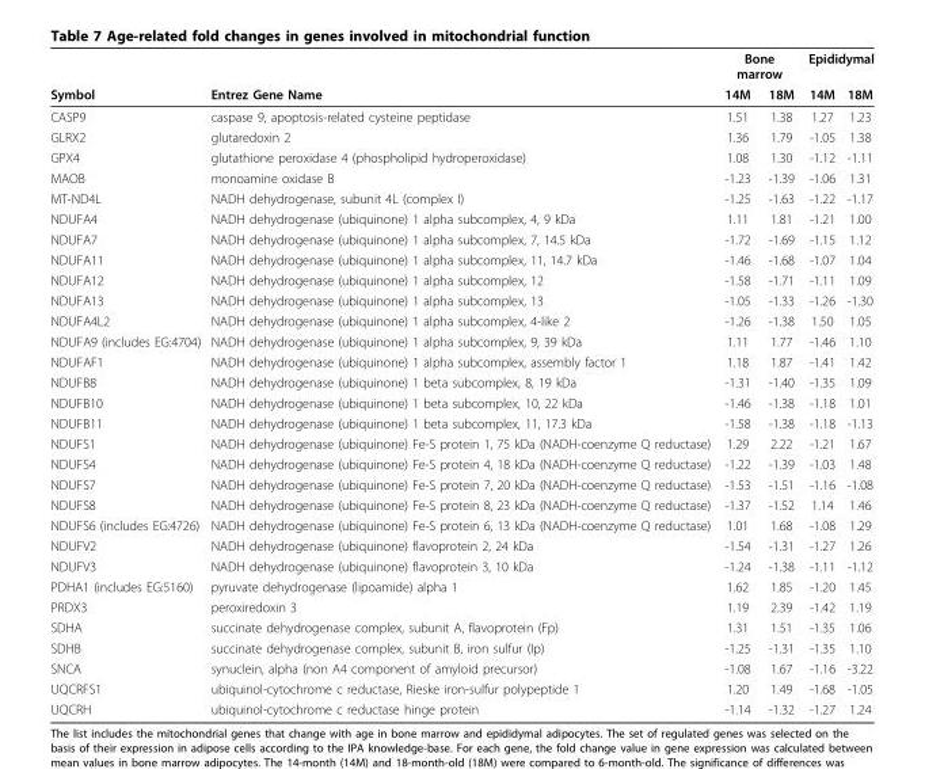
<table><thead><tr><td rowspan="2">Symbol</td><td rowspan="2">Entrez Gene Name</td><td colspan="2">Bone marrow</td><td colspan="2">Epididymal</td></tr><tr><td>14M</td><td>18M</td><td>14M</td><td>18M</td></tr></thead><tbody><tr><td>CASP9</td><td>caspase 9, apoptosis-related cysteine peptidase</td><td>1.51</td><td>1.38</td><td>1.27</td><td>1.23</td></tr><tr><td>GLRX2</td><td>glutaredoxin 2</td><td>1.36</td><td>1.79</td><td>-1.05</td><td>1.38</td></tr><tr><td>GPX4</td><td>glutathione peroxidase 4 (phospholipid hydroperoxidase)</td><td>1.08</td><td>1.30</td><td>-1.12</td><td>-1.11</td></tr><tr><td>MAOB</td><td>monoamine oxidase B</td><td>-1.23</td><td>-1.39</td><td>-1.06</td><td>1.31</td></tr><tr><td>MT-ND4L</td><td>NADH dehydrogenase, subunit 4L (complex I)</td><td>-1.25</td><td>-1.63</td><td>-1.22</td><td>-1.17</td></tr><tr><td>NDUFA4</td><td>NADH dehydrogenase (ubiquinone) 1 alpha subcomplex, 4, 9 kDa</td><td>1.11</td><td>1.81</td><td>-1.21</td><td>1.00</td></tr><tr><td>NDUFA7</td><td>NADH dehydrogenase (ubiquinone) 1 alpha subcomplex, 7, 14.5 kDa</td><td>-1.72</td><td>-1.69</td><td>-1.15</td><td>1.12</td></tr><tr><td>NDUFA11</td><td>NADH dehydrogenase (ubiquinone) 1 alpha subcomplex, 11, 14.7 kDa</td><td>-1.46</td><td>-1.68</td><td>-1.07</td><td>1.04</td></tr><tr><td>NDUFA12</td><td>NADH dehydrogenase (ubiquinone) 1 alpha subcomplex, 12</td><td>-1.58</td><td>-1.71</td><td>-1.11</td><td>1.09</td></tr><tr><td>NDUFA13</td><td>NADH dehydrogenase (ubiquinone) 1 alpha subcomplex, 13</td><td>-1.05</td><td>-1.33</td><td>-1.26</td><td>-1.30</td></tr><tr><td>NDUFA4L2</td><td>NADH dehydrogenase (ubiquinone) 1 alpha subcomplex, 4-like 2</td><td>-1.26</td><td>-1.38</td><td>1.50</td><td>1.05</td></tr><tr><td>NDUFA9 (includes EG:4704)</td><td>NADH dehydrogenase (ubiquinone) 1 alpha subcomplex, 9, 39 kDa</td><td>1.11</td><td>1.77</td><td>-1.46</td><td>1.10</td></tr><tr><td>NDUFAF1</td><td>NADH dehydrogenase (ubiquinone) 1 alpha subcomplex, assembly factor 1</td><td>1.18</td><td>1.87</td><td>-1.41</td><td>1.42</td></tr><tr><td>NDUFB8</td><td>NADH dehydrogenase (ubiquinone) 1 beta subcomplex, 8, 19 kDa</td><td>-1.31</td><td>-1.40</td><td>-1.35</td><td>1.09</td></tr><tr><td>NDUFB10</td><td>NADH dehydrogenase (ubiquinone) 1 beta subcomplex, 10, 22 kDa</td><td>-1.46</td><td>-1.38</td><td>-1.18</td><td>1.01</td></tr><tr><td>NDUFB11</td><td>NADH dehydrogenase (ubiquinone) 1 beta subcomplex, 11, 17.3 kDa</td><td>-1.58</td><td>-1.38</td><td>-1.18</td><td>-1.13</td></tr><tr><td>NDUFS1</td><td>NADH dehydrogenase (ubiquinone) Fe-S protein 1, 75 kDa (NADH-coenzyme Q reductase)</td><td>1.29</td><td>2.22</td><td>-1.21</td><td>1.67</td></tr><tr><td>NDUFS4</td><td>NADH dehydrogenase (ubiquinone) Fe-S protein 4, 18 kDa (NADH-coenzyme Q reductase)</td><td>-1.22</td><td>-1.39</td><td>-1.03</td><td>1.48</td></tr><tr><td>NDUFS7</td><td>NADH dehydrogenase (ubiquinone) Fe-S protein 7, 20 kDa (NADH-coenzyme Q reductase)</td><td>-1.53</td><td>-1.51</td><td>-1.16</td><td>-1.08</td></tr><tr><td>NDUFS8</td><td>NADH dehydrogenase (ubiquinone) Fe-S protein 8, 23 kDa (NADH-coenzyme Q reductase)</td><td>-1.37</td><td>-1.52</td><td>1.14</td><td>1.46</td></tr><tr><td>NDUFS6 (includes EG:4726)</td><td>NADH dehydrogenase (ubiquinone) Fe-S protein 6, 13 kDa (NADH-coenzyme Q reductase)</td><td>1.01</td><td>1.68</td><td>-1.08</td><td>1.29</td></tr><tr><td>NDUFV2</td><td>NADH dehydrogenase (ubiquinone) flavoprotein 2, 24 kDa</td><td>-1.54</td><td>-1.31</td><td>-1.27</td><td>1.26</td></tr><tr><td>NDUFV3</td><td>NADH dehydrogenase (ubiquinone) flavoprotein 3, 10 kDa</td><td>-1.24</td><td>-1.38</td><td>-1.11</td><td>-1.12</td></tr><tr><td>PDHA1 (includes EG:5160)</td><td>pyruvate dehydrogenase (lipoamide) alpha 1</td><td>1.62</td><td>1.85</td><td>-1.20</td><td>1.45</td></tr><tr><td>PRDX3</td><td>peroxiredoxin 3</td><td>1.19</td><td>2.39</td><td>-1.42</td><td>1.19</td></tr><tr><td>SDHA</td><td>succinate dehydrogenase complex, subunit A, flavoprotein (Fp)</td><td>1.31</td><td>1.51</td><td>-1.35</td><td>1.06</td></tr><tr><td>SDHB</td><td>succinate dehydrogenase complex, subunit B, iron sulfur (Ip)</td><td>-1.25</td><td>-1.31</td><td>-1.35</td><td>1.10</td></tr><tr><td>SNCA</td><td>synuclein, alpha (non A4 component of amyloid precursor)</td><td>-1.08</td><td>1.67</td><td>-1.16</td><td>-3.22</td></tr><tr><td>UQCRFS1</td><td>ubiquinol-cytochrome c reductase, Rieske iron-sulfur polypeptide 1</td><td>1.20</td><td>1.49</td><td>-1.68</td><td>-1.05</td></tr><tr><td>UQCRH</td><td>ubiquinol-cytochrome c reductase hinge protein</td><td>-1.14</td><td>-1.32</td><td>-1.27</td><td>1.24</td></tr></tbody></table>